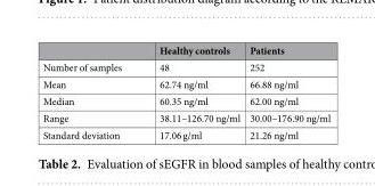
<table><thead><tr><td></td><td>Healthy controls</td><td>Patients</td></tr></thead><tbody><tr><td>Number of samples</td><td>48</td><td>252</td></tr><tr><td>Mean</td><td>62.74 ng/ml</td><td>66.88 ng/ml</td></tr><tr><td>Median</td><td>60.35 ng/ml</td><td>62.00 ng/ml</td></tr><tr><td>Range</td><td>38.11–126.70 ng/ml</td><td>30.00–176.90 ng/ml</td></tr><tr><td>Standard deviation</td><td>17.06 g/ml</td><td>21.26 ng/ml</td></tr></tbody></table>